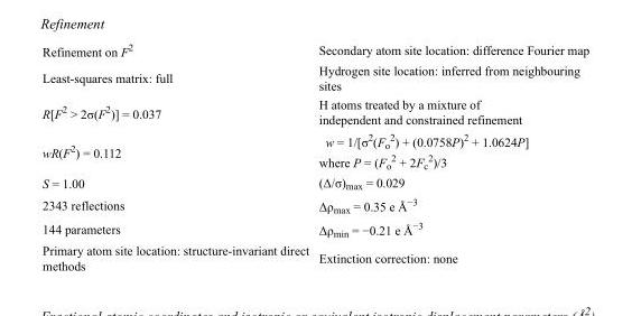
<table><tbody><tr><td>Refinement on F<sup>2</sup></td><td>Secondary atom site location: difference Fourier map</td></tr><tr><td>Least-squares matrix: full</td><td>Hydrogen site location: inferred from neighbouring sites</td></tr><tr><td>R[F<sup>2</sup> &gt; 2σ(F<sup>2</sup>)] = 0.037</td><td>H atoms treated by a mixture of independent and constrained refinement</td></tr><tr><td>wR(F<sup>2</sup>) = 0.112</td><td>w = 1/[σ<sup>2</sup>(F<sub>o</sub> <sup>2</sup>) + (0.0758P)<sup>2</sup> + 1.0624P] where P = (F<sub>o</sub> <sup>2</sup> + 2F<sub>c</sub> <sup>2</sup>)/3</td></tr><tr><td>S = 1.00</td><td>(Δ/σ)<sub>max</sub> = 0.029</td></tr><tr><td>2343 reflections</td><td>Δρ<sub>max</sub> = 0.35 e Å<sup>−3</sup></td></tr><tr><td>144 parameters</td><td>Δρ<sub>min</sub> = −0.21 e Å<sup>−3</sup></td></tr><tr><td>Primary atom site location: structure-invariant direct methods</td><td>Extinction correction: none</td></tr></tbody></table>